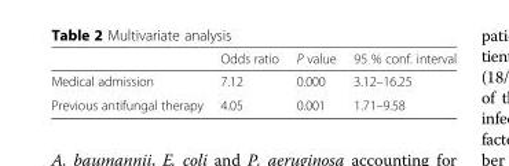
<table><thead><tr><td></td><td>Odds ratio</td><td>P value</td><td>95 % conf. interval</td></tr></thead><tbody><tr><td>Medical admission</td><td>7.12</td><td>0.000</td><td>3.12–16.25</td></tr><tr><td>Previous antifungal therapy</td><td>4.05</td><td>0.001</td><td>1.71–9.58</td></tr></tbody></table>